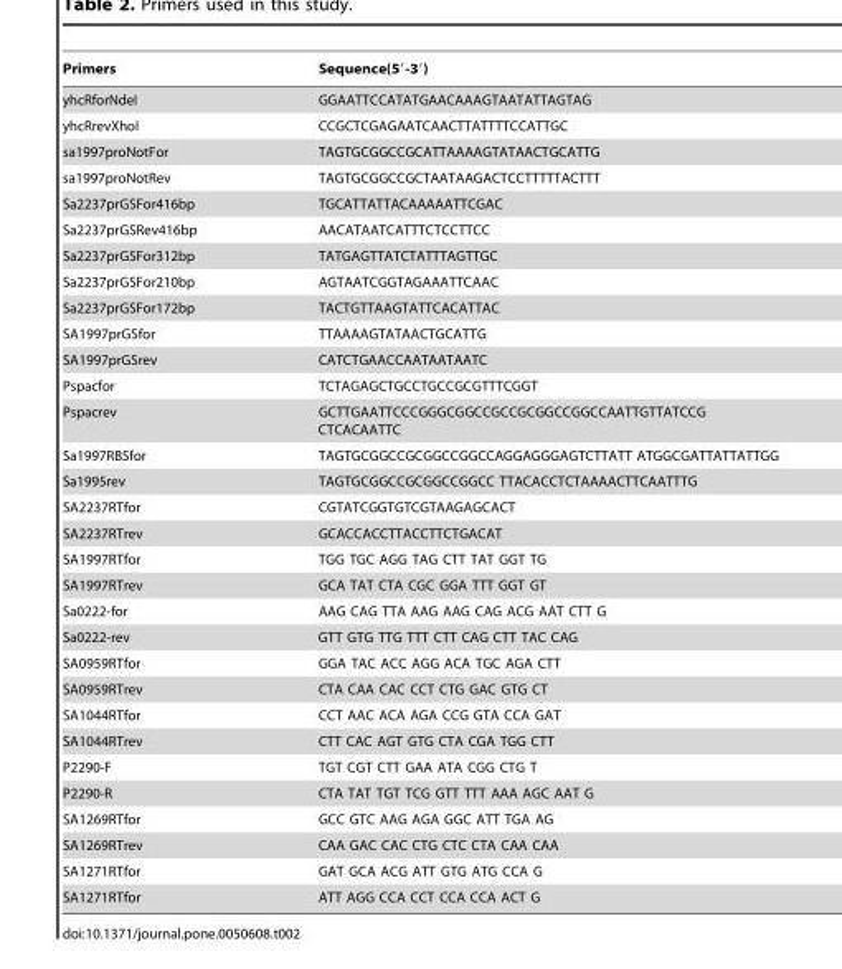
<table><thead><tr><td>Primers</td><td>Sequence(5′-3′)</td></tr></thead><tbody><tr><td>yhcRforNdeI</td><td>GGAATTCCATATGAACAAAGTAATATTAGTAG</td></tr><tr><td>yhcRrevXhoI</td><td>CCGCTCGAGAATCAACTTATTTTCCATTGC</td></tr><tr><td>sa1997proNotFor</td><td>TAGTGCGGCCGCATTAAAAGTATAACTGCATTG</td></tr><tr><td>sa1997proNotRev</td><td>TAGTGCGGCCGCTAATAAGACTCCTTTTTACTTT</td></tr><tr><td>Sa2237prGSFor416bp</td><td>TGCATTATTACAAAAATTCGAC</td></tr><tr><td>Sa2237prGSRev416bp</td><td>AACATAATCATTTCTCCTTCC</td></tr><tr><td>Sa2237prGSFor312bp</td><td>TATGAGTTATCTATTTAGTTGC</td></tr><tr><td>Sa2237prGSFor210bp</td><td>AGTAATCGGTAGAAATTCAAC</td></tr><tr><td>Sa2237prGSFor172bp</td><td>TACTGTTAAGTATTCACATTAC</td></tr><tr><td>SA1997prGSfor</td><td>TTAAAAGTATAACTGCATTG</td></tr><tr><td>SA1997prGSrev</td><td>CATCTGAACCAATAATAATC</td></tr><tr><td>Pspacfor</td><td>TCTAGAGCTGCCTGCCGCGTTTCGGT</td></tr><tr><td>Pspacrev</td><td>GCTTGAATTCCCGGGCGGCCGCCGCGGCCGGCCAATTGTTATCCG CTCACAATTC</td></tr><tr><td>Sa1997RBSfor</td><td>TAGTGCGGCCGCGGCCGGCCAGGAGGGAGTCTTATT ATGGCGATTATTATTGG</td></tr><tr><td>Sa1995rev</td><td>TAGTGCGGCCGCGGCCGGCC TTACACCTCTAAAACTTCAATTTG</td></tr><tr><td>SA2237RTfor</td><td>CGTATCGGTGTCGTAAGAGCACT</td></tr><tr><td>SA2237RTrev</td><td>GCACCACCTTACCTTCTGACAT</td></tr><tr><td>SA1997RTfor</td><td>TGG TGC AGG TAG CTT TAT GGT TG</td></tr><tr><td>SA1997RTrev</td><td>GCA TAT CTA CGC GGA TTT GGT GT</td></tr><tr><td>Sa0222-for</td><td>AAG CAG TTA AAG AAG CAG ACG AAT CTT G</td></tr><tr><td>Sa0222-rev</td><td>GTT GTG TTG TTT CTT CAG CTT TAC CAG</td></tr><tr><td>SA0959RTfor</td><td>GGA TAC ACC AGG ACA TGC AGA CTT</td></tr><tr><td>SA0959RTrev</td><td>CTA CAA CAC CCT CTG GAC GTG CT</td></tr><tr><td>SA1044RTfor</td><td>CCT AAC ACA AGA CCG GTA CCA GAT</td></tr><tr><td>SA1044RTrev</td><td>CTT CAC AGT GTG CTA CGA TGG CTT</td></tr><tr><td>P2290-F</td><td>TGT CGT CTT GAA ATA CGG CTG T</td></tr><tr><td>P2290-R</td><td>CTA TAT TGT TCG GTT TTT AAA AGC AAT G</td></tr><tr><td>SA1269RTfor</td><td>GCC GTC AAG AGA GGC ATT TGA AG</td></tr><tr><td>SA1269RTrev</td><td>CAA GAC CAC CTG CTC CTA CAA CAA</td></tr><tr><td>SA1271RTfor</td><td>GAT GCA ACG ATT GTG ATG CCA G</td></tr><tr><td>SA1271RTfor</td><td>ATT AGG CCA CCT CCA CCA ACT G</td></tr></tbody></table>